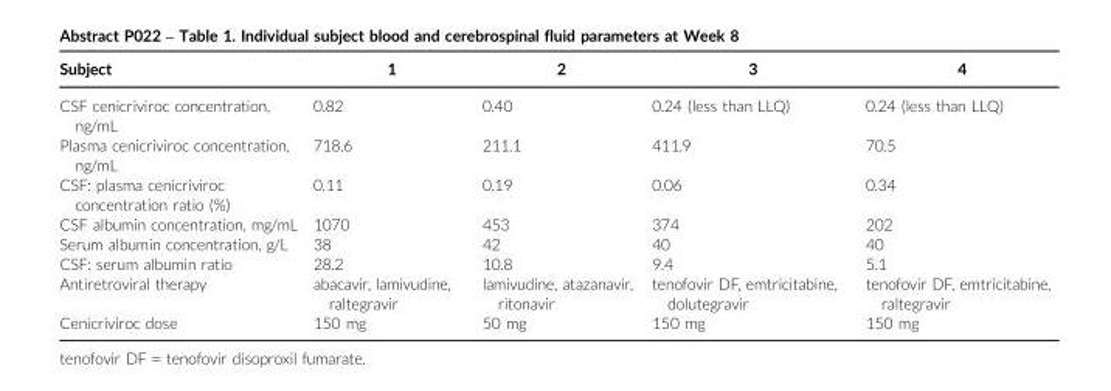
<table><thead><tr><td>Subject</td><td>1</td><td>2</td><td>3</td><td>4</td></tr></thead><tbody><tr><td>CSF cenicriviroc concentration, ng/mL</td><td>0.82</td><td>0.40</td><td>0.24 (less than LLQ)</td><td>0.24 (less than LLQ)</td></tr><tr><td>Plasma cenicriviroc concentration, ng/mL</td><td>718.6</td><td>211.1</td><td>411.9</td><td>70.5</td></tr><tr><td>CSF: plasma cenicriviroc concentration ratio (%)</td><td>0.11</td><td>0.19</td><td>0.06</td><td>0.34</td></tr><tr><td>CSF albumin concentration, mg/mL</td><td>1070</td><td>453</td><td>374</td><td>202</td></tr><tr><td>Serum albumin concentration, g/L</td><td>38</td><td>42</td><td>40</td><td>40</td></tr><tr><td>CSF: serum albumin ratio</td><td>28.2</td><td>10.8</td><td>9.4</td><td>5.1</td></tr><tr><td>Antiretroviral therapy</td><td>abacavir, lamivudine, raltegravir</td><td>lamivudine, atazanavir, ritonavir</td><td>tenofovir DF, emtricitabine, dolutegravir</td><td>tenofovir DF, emtricitabine, raltegravir</td></tr><tr><td>Cenicriviroc dose</td><td>150 mg</td><td>50 mg</td><td>150 mg</td><td>150 mg</td></tr></tbody></table>